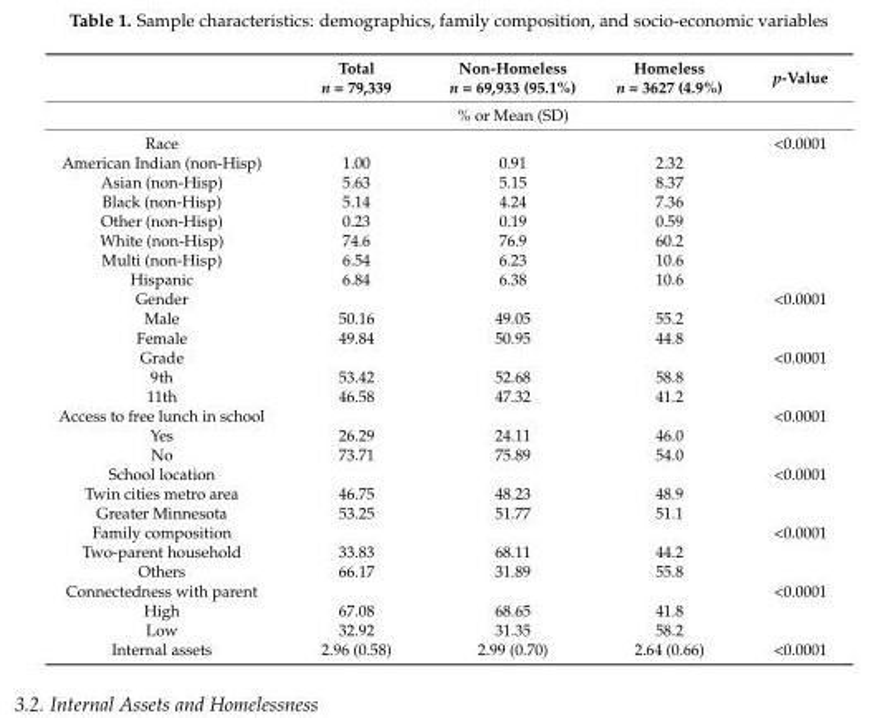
<table><thead><tr><td></td><td>Total n = 79,339</td><td>Non-Homeless n = 69,933 (95.1%)</td><td>Homeless n = 3627 (4.9%)</td><td>p-Value</td></tr></thead><tbody><tr><td></td><td colspan="3">% or Mean (SD)</td><td></td></tr><tr><td>Race</td><td></td><td></td><td></td><td>&lt;0.0001</td></tr><tr><td>American Indian (non-Hisp)</td><td>1.00</td><td>0.91</td><td>2.32</td><td></td></tr><tr><td>Asian (non-Hisp)</td><td>5.63</td><td>5.15</td><td>8.37</td><td></td></tr><tr><td>Black (non-Hisp)</td><td>5.14</td><td>4.24</td><td>7.36</td><td></td></tr><tr><td>Other (non-Hisp)</td><td>0.23</td><td>0.19</td><td>0.59</td><td></td></tr><tr><td>White (non-Hisp)</td><td>74.6</td><td>76.9</td><td>60.2</td><td></td></tr><tr><td>Multi (non-Hisp)</td><td>6.54</td><td>6.23</td><td>10.6</td><td></td></tr><tr><td>Hispanic</td><td>6.84</td><td>6.38</td><td>10.6</td><td></td></tr><tr><td>Gender</td><td></td><td></td><td></td><td>&lt;0.0001</td></tr><tr><td>Male</td><td>50.16</td><td>49.05</td><td>55.2</td><td></td></tr><tr><td>Female</td><td>49.84</td><td>50.95</td><td>44.8</td><td></td></tr><tr><td>Grade</td><td></td><td></td><td></td><td>&lt;0.0001</td></tr><tr><td>9th</td><td>53.42</td><td>52.68</td><td>58.8</td><td></td></tr><tr><td>11th</td><td>46.58</td><td>47.32</td><td>41.2</td><td></td></tr><tr><td>Access to free lunch in school</td><td></td><td></td><td></td><td>&lt;0.0001</td></tr><tr><td>Yes</td><td>26.29</td><td>24.11</td><td>46.0</td><td></td></tr><tr><td>No</td><td>73.71</td><td>75.89</td><td>54.0</td><td></td></tr><tr><td>School location</td><td></td><td></td><td></td><td>&lt;0.0001</td></tr><tr><td>Twin cities metro area</td><td>46.75</td><td>48.23</td><td>48.9</td><td></td></tr><tr><td>Greater Minnesota</td><td>53.25</td><td>51.77</td><td>51.1</td><td></td></tr><tr><td>Family composition</td><td></td><td></td><td></td><td>&lt;0.0001</td></tr><tr><td>Two-parent household</td><td>33.83</td><td>68.11</td><td>44.2</td><td></td></tr><tr><td>Others</td><td>66.17</td><td>31.89</td><td>55.8</td><td></td></tr><tr><td>Connectedness with parent</td><td></td><td></td><td></td><td>&lt;0.0001</td></tr><tr><td>High</td><td>67.08</td><td>68.65</td><td>41.8</td><td></td></tr><tr><td>Low</td><td>32.92</td><td>31.35</td><td>58.2</td><td></td></tr><tr><td>Internal assets</td><td>2.96 (0.58)</td><td>2.99 (0.70)</td><td>2.64 (0.66)</td><td>&lt;0.0001</td></tr></tbody></table>